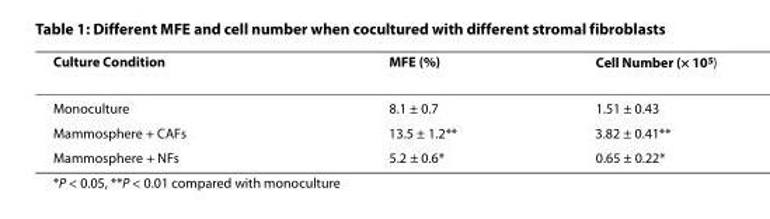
<table><thead><tr><td>Culture Condition</td><td>MFE (%)</td><td>Cell Number (× 10<sup>5</sup>)</td></tr></thead><tbody><tr><td>Monoculture</td><td>8.1 ± 0.7</td><td>1.51 ± 0.43</td></tr><tr><td>Mammosphere + CAFs</td><td>13.5 ± 1.2**</td><td>3.82 ± 0.41**</td></tr><tr><td>Mammosphere + NFs</td><td>5.2 ± 0.6*</td><td>0.65 ± 0.22*</td></tr></tbody></table>